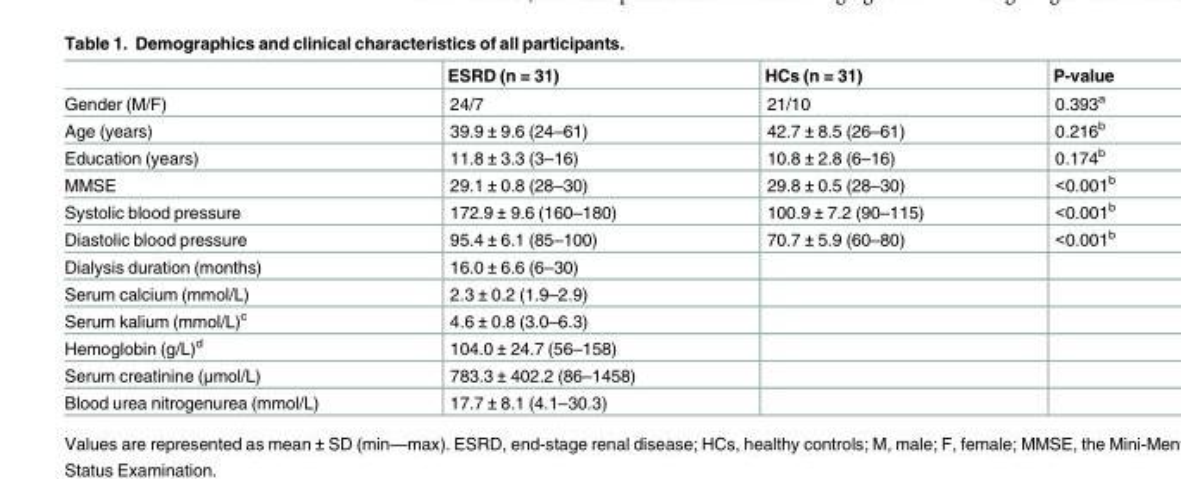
<table><thead><tr><td></td><td>ESRD (n = 31)</td><td>HCs (n = 31)</td><td>P-value</td></tr></thead><tbody><tr><td>Gender (M/F)</td><td>24/7</td><td>21/10</td><td>0.393<sup>a</sup></td></tr><tr><td>Age (years)</td><td>39.9 ± 9.6 (24–61)</td><td>42.7 ± 8.5 (26–61)</td><td>0.216<sup>b</sup></td></tr><tr><td>Education (years)</td><td>11.8 ± 3.3 (3–16)</td><td>10.8 ± 2.8 (6–16)</td><td>0.174<sup>b</sup></td></tr><tr><td>MMSE</td><td>29.1 ± 0.8 (28–30)</td><td>29.8 ± 0.5 (28–30)</td><td>&lt;0.001<sup>b</sup></td></tr><tr><td>Systolic blood pressure</td><td>172.9 ± 9.6 (160–180)</td><td>100.9 ± 7.2 (90–115)</td><td>&lt;0.001<sup>b</sup></td></tr><tr><td>Diastolic blood pressure</td><td>95.4 ± 6.1 (85–100)</td><td>70.7 ± 5.9 (60–80)</td><td>&lt;0.001<sup>b</sup></td></tr><tr><td>Dialysis duration (months)</td><td>16.0 ± 6.6 (6–30)</td><td></td><td></td></tr><tr><td>Serum calcium (mmol/L)</td><td>2.3 ± 0.2 (1.9–2.9)</td><td></td><td></td></tr><tr><td>Serum kalium (mmol/L)<sup>c</sup></td><td>4.6 ± 0.8 (3.0–6.3)</td><td></td><td></td></tr><tr><td>Hemoglobin (g/L)<sup>d</sup></td><td>104.0 ± 24.7 (56–158)</td><td></td><td></td></tr><tr><td>Serum creatinine (μmol/L)</td><td>783.3 ± 402.2 (86–1458)</td><td></td><td></td></tr><tr><td>Blood urea nitrogenurea (mmol/L)</td><td>17.7 ± 8.1 (4.1–30.3)</td><td></td><td></td></tr></tbody></table>